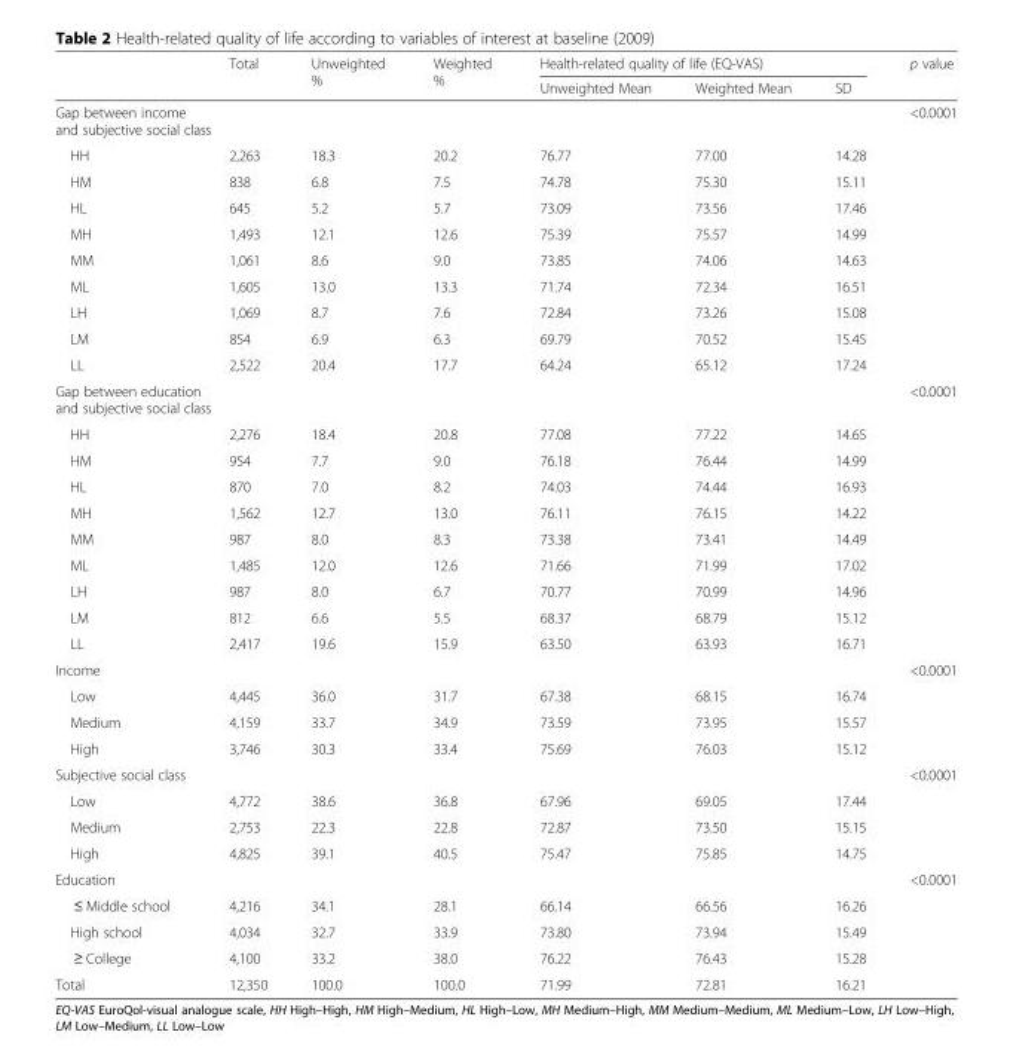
<table><thead><tr><td rowspan="2"></td><td rowspan="2">Total</td><td rowspan="2">Unweighted %</td><td rowspan="2">Weighted %</td><td colspan="3">Health-related quality of life (EQ-VAS)</td><td rowspan="2">p value</td></tr><tr><td>Unweighted Mean</td><td>Weighted Mean</td><td>SD</td></tr></thead><tbody><tr><td colspan="3">Gap between income and subjective social class</td><td></td><td></td><td></td><td></td><td>&lt;0.0001</td></tr><tr><td>HH</td><td>2,263</td><td>18.3</td><td>20.2</td><td>76.77</td><td>77.00</td><td>14.28</td><td></td></tr><tr><td>HM</td><td>838</td><td>6.8</td><td>7.5</td><td>74.78</td><td>75.30</td><td>15.11</td><td></td></tr><tr><td>HL</td><td>645</td><td>5.2</td><td>5.7</td><td>73.09</td><td>73.56</td><td>17.46</td><td></td></tr><tr><td>MH</td><td>1,493</td><td>12.1</td><td>12.6</td><td>75.39</td><td>75.57</td><td>14.99</td><td></td></tr><tr><td>MM</td><td>1,061</td><td>8.6</td><td>9.0</td><td>73.85</td><td>74.06</td><td>14.63</td><td></td></tr><tr><td>ML</td><td>1,605</td><td>13.0</td><td>13.3</td><td>71.74</td><td>72.34</td><td>16.51</td><td></td></tr><tr><td>LH</td><td>1,069</td><td>8.7</td><td>7.6</td><td>72.84</td><td>73.26</td><td>15.08</td><td></td></tr><tr><td>LM</td><td>854</td><td>6.9</td><td>6.3</td><td>69.79</td><td>70.52</td><td>15.45</td><td></td></tr><tr><td>LL</td><td>2,522</td><td>20.4</td><td>17.7</td><td>64.24</td><td>65.12</td><td>17.24</td><td></td></tr><tr><td colspan="3">Gap between education and subjective social class</td><td></td><td></td><td></td><td></td><td>&lt;0.0001</td></tr><tr><td>HH</td><td>2,276</td><td>18.4</td><td>20.8</td><td>77.08</td><td>77.22</td><td>14.65</td><td></td></tr><tr><td>HM</td><td>954</td><td>7.7</td><td>9.0</td><td>76.18</td><td>76.44</td><td>14.99</td><td></td></tr><tr><td>HL</td><td>870</td><td>7.0</td><td>8.2</td><td>74.03</td><td>74.44</td><td>16.93</td><td></td></tr><tr><td>MH</td><td>1,562</td><td>12.7</td><td>13.0</td><td>76.11</td><td>76.15</td><td>14.22</td><td></td></tr><tr><td>MM</td><td>987</td><td>8.0</td><td>8.3</td><td>73.38</td><td>73.41</td><td>14.49</td><td></td></tr><tr><td>ML</td><td>1,485</td><td>12.0</td><td>12.6</td><td>71.66</td><td>71.99</td><td>17.02</td><td></td></tr><tr><td>LH</td><td>987</td><td>8.0</td><td>6.7</td><td>70.77</td><td>70.99</td><td>14.96</td><td></td></tr><tr><td>LM</td><td>812</td><td>6.6</td><td>5.5</td><td>68.37</td><td>68.79</td><td>15.12</td><td></td></tr><tr><td>LL</td><td>2,417</td><td>19.6</td><td>15.9</td><td>63.50</td><td>63.93</td><td>16.71</td><td></td></tr><tr><td>Income</td><td></td><td></td><td></td><td></td><td></td><td></td><td>&lt;0.0001</td></tr><tr><td>Low</td><td>4,445</td><td>36.0</td><td>31.7</td><td>67.38</td><td>68.15</td><td>16.74</td><td></td></tr><tr><td>Medium</td><td>4,159</td><td>33.7</td><td>34.9</td><td>73.59</td><td>73.95</td><td>15.57</td><td></td></tr><tr><td>High</td><td>3,746</td><td>30.3</td><td>33.4</td><td>75.69</td><td>76.03</td><td>15.12</td><td></td></tr><tr><td>Subjective social class</td><td></td><td></td><td></td><td></td><td></td><td></td><td>&lt;0.0001</td></tr><tr><td>Low</td><td>4,772</td><td>38.6</td><td>36.8</td><td>67.96</td><td>69.05</td><td>17.44</td><td></td></tr><tr><td>Medium</td><td>2,753</td><td>22.3</td><td>22.8</td><td>72.87</td><td>73.50</td><td>15.15</td><td></td></tr><tr><td>High</td><td>4,825</td><td>39.1</td><td>40.5</td><td>75.47</td><td>75.85</td><td>14.75</td><td></td></tr><tr><td>Education</td><td></td><td></td><td></td><td></td><td></td><td></td><td>&lt;0.0001</td></tr><tr><td>≤ Middle school</td><td>4,216</td><td>34.1</td><td>28.1</td><td>66.14</td><td>66.56</td><td>16.26</td><td></td></tr><tr><td>High school</td><td>4,034</td><td>32.7</td><td>33.9</td><td>73.80</td><td>73.94</td><td>15.49</td><td></td></tr><tr><td>≥ College</td><td>4,100</td><td>33.2</td><td>38.0</td><td>76.22</td><td>76.43</td><td>15.28</td><td></td></tr><tr><td>Total</td><td>12,350</td><td>100.0</td><td>100.0</td><td>71.99</td><td>72.81</td><td>16.21</td><td></td></tr></tbody></table>